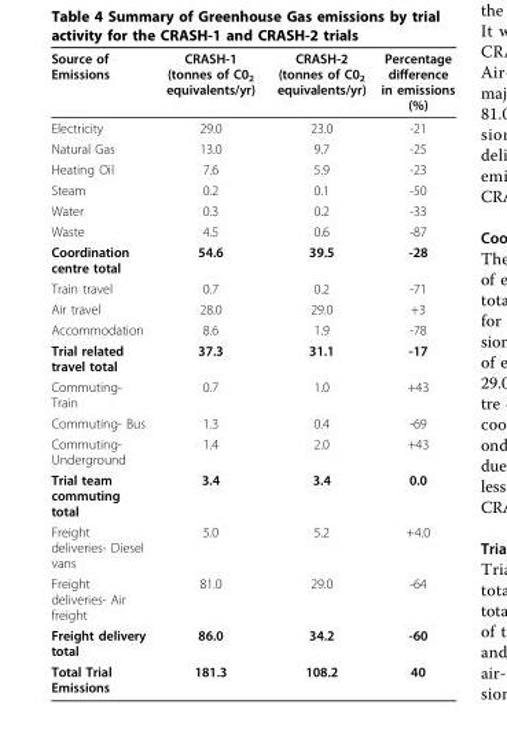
<table><thead><tr><td>Source of Emissions</td><td>CRASH-1 (tonnes of C0<sub>2</sub> equivalents/yr)</td><td>CRASH-2 (tonnes of C0<sub>2</sub> equivalents/yr)</td><td>Percentage difference in emissions (%)</td></tr></thead><tbody><tr><td>Electricity</td><td>29.0</td><td>23.0</td><td>-21</td></tr><tr><td>Natural Gas</td><td>13.0</td><td>9.7</td><td>-25</td></tr><tr><td>Heating Oil</td><td>7.6</td><td>5.9</td><td>-23</td></tr><tr><td>Steam</td><td>0.2</td><td>0.1</td><td>-50</td></tr><tr><td>Water</td><td>0.3</td><td>0.2</td><td>-33</td></tr><tr><td>Waste</td><td>4.5</td><td>0.6</td><td>-87</td></tr><tr><td>Coordination centre total</td><td>54.6</td><td>39.5</td><td>-28</td></tr><tr><td>Train travel</td><td>0.7</td><td>0.2</td><td>-71</td></tr><tr><td>Air travel</td><td>28.0</td><td>29.0</td><td>+3</td></tr><tr><td>Accommodation</td><td>8.6</td><td>1.9</td><td>-78</td></tr><tr><td>Trial related travel total</td><td>37.3</td><td>31.1</td><td>-17</td></tr><tr><td>Commuting- Train</td><td>0.7</td><td>1.0</td><td>+43</td></tr><tr><td>Commuting- Bus</td><td>1.3</td><td>0.4</td><td>-69</td></tr><tr><td>Commuting- Underground</td><td>1.4</td><td>2.0</td><td>+43</td></tr><tr><td>Trial team commuting total</td><td>3.4</td><td>3.4</td><td>0.0</td></tr><tr><td>Freight deliveries- Diesel vans</td><td>5.0</td><td>5.2</td><td>+4.0</td></tr><tr><td>Freight deliveries- Air freight</td><td>81.0</td><td>29.0</td><td>-64</td></tr><tr><td>Freight delivery total</td><td>86.0</td><td>34.2</td><td>-60</td></tr><tr><td>Total Trial Emissions</td><td>181.3</td><td>108.2</td><td>40</td></tr></tbody></table>